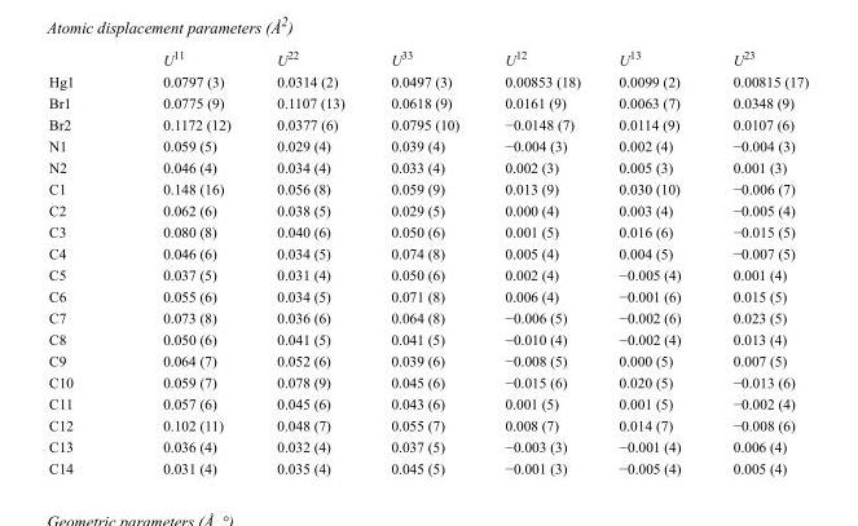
<table><thead><tr><td></td><td>U<sup>11</sup></td><td>U<sup>22</sup></td><td>U<sup>33</sup></td><td>U<sup>12</sup></td><td>U<sup>13</sup></td><td>U<sup>23</sup></td></tr></thead><tbody><tr><td>Hg1</td><td>0.0797 (3)</td><td>0.0314 (2)</td><td>0.0497 (3)</td><td>0.00853 (18)</td><td>0.0099 (2)</td><td>0.00815 (17)</td></tr><tr><td>Br1</td><td>0.0775 (9)</td><td>0.1107 (13)</td><td>0.0618 (9)</td><td>0.0161 (9)</td><td>0.0063 (7)</td><td>0.0348 (9)</td></tr><tr><td>Br2</td><td>0.1172 (12)</td><td>0.0377 (6)</td><td>0.0795 (10)</td><td>−0.0148 (7)</td><td>0.0114 (9)</td><td>0.0107 (6)</td></tr><tr><td>N1</td><td>0.059 (5)</td><td>0.029 (4)</td><td>0.039 (4)</td><td>−0.004 (3)</td><td>0.002 (4)</td><td>−0.004 (3)</td></tr><tr><td>N2</td><td>0.046 (4)</td><td>0.034 (4)</td><td>0.033 (4)</td><td>0.002 (3)</td><td>0.005 (3)</td><td>0.001 (3)</td></tr><tr><td>C1</td><td>0.148 (16)</td><td>0.056 (8)</td><td>0.059 (9)</td><td>0.013 (9)</td><td>0.030 (10)</td><td>−0.006 (7)</td></tr><tr><td>C2</td><td>0.062 (6)</td><td>0.038 (5)</td><td>0.029 (5)</td><td>0.000 (4)</td><td>0.003 (4)</td><td>−0.005 (4)</td></tr><tr><td>C3</td><td>0.080 (8)</td><td>0.040 (6)</td><td>0.050 (6)</td><td>0.001 (5)</td><td>0.016 (6)</td><td>−0.015 (5)</td></tr><tr><td>C4</td><td>0.046 (6)</td><td>0.034 (5)</td><td>0.074 (8)</td><td>0.005 (4)</td><td>0.004 (5)</td><td>−0.007 (5)</td></tr><tr><td>C5</td><td>0.037 (5)</td><td>0.031 (4)</td><td>0.050 (6)</td><td>0.002 (4)</td><td>−0.005 (4)</td><td>0.001 (4)</td></tr><tr><td>C6</td><td>0.055 (6)</td><td>0.034 (5)</td><td>0.071 (8)</td><td>0.006 (4)</td><td>−0.001 (6)</td><td>0.015 (5)</td></tr><tr><td>C7</td><td>0.073 (8)</td><td>0.036 (6)</td><td>0.064 (8)</td><td>−0.006 (5)</td><td>−0.002 (6)</td><td>0.023 (5)</td></tr><tr><td>C8</td><td>0.050 (6)</td><td>0.041 (5)</td><td>0.041 (5)</td><td>−0.010 (4)</td><td>−0.002 (4)</td><td>0.013 (4)</td></tr><tr><td>C9</td><td>0.064 (7)</td><td>0.052 (6)</td><td>0.039 (6)</td><td>−0.008 (5)</td><td>0.000 (5)</td><td>0.007 (5)</td></tr><tr><td>C10</td><td>0.059 (7)</td><td>0.078 (9)</td><td>0.045 (6)</td><td>−0.015 (6)</td><td>0.020 (5)</td><td>−0.013 (6)</td></tr><tr><td>C11</td><td>0.057 (6)</td><td>0.045 (6)</td><td>0.043 (6)</td><td>0.001 (5)</td><td>0.001 (5)</td><td>−0.002 (4)</td></tr><tr><td>C12</td><td>0.102 (11)</td><td>0.048 (7)</td><td>0.055 (7)</td><td>0.008 (7)</td><td>0.014 (7)</td><td>−0.008 (6)</td></tr><tr><td>C13</td><td>0.036 (4)</td><td>0.032 (4)</td><td>0.037 (5)</td><td>−0.003 (3)</td><td>−0.001 (4)</td><td>0.006 (4)</td></tr><tr><td>C14</td><td>0.031 (4)</td><td>0.035 (4)</td><td>0.045 (5)</td><td>−0.001 (3)</td><td>−0.005 (4)</td><td>0.005 (4)</td></tr></tbody></table>